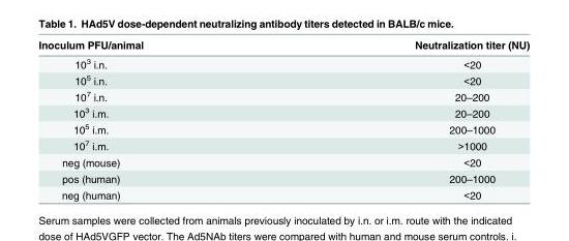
<table><thead><tr><td>Inoculum PFU/animal</td><td>Neutralization titer (NU)</td></tr></thead><tbody><tr><td>10<sup>3</sup> i.n.</td><td>&lt;20</td></tr><tr><td>10<sup>5</sup> i.n.</td><td>&lt;20</td></tr><tr><td>10<sup>7</sup> i.n.</td><td>20–200</td></tr><tr><td>10<sup>3</sup> i.m.</td><td>20–200</td></tr><tr><td>10<sup>5</sup> i.m.</td><td>200–1000</td></tr><tr><td>10<sup>7</sup> i.m.</td><td>&gt;1000</td></tr><tr><td>neg (mouse)</td><td>&lt;20</td></tr><tr><td>pos (human)</td><td>200–1000</td></tr><tr><td>neg (human)</td><td>&lt;20</td></tr></tbody></table>